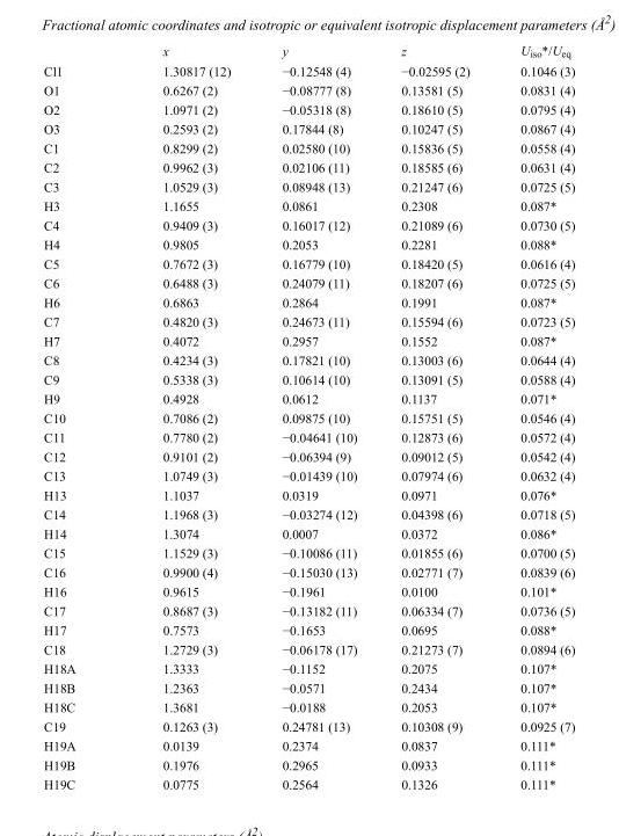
<table><thead><tr><td></td><td>x</td><td>y</td><td>z</td><td>U<sub>iso</sub>*/U<sub>eq</sub></td></tr></thead><tbody><tr><td>Cl1</td><td>1.30817 (12)</td><td>−0.12548 (4)</td><td>−0.02595 (2)</td><td>0.1046 (3)</td></tr><tr><td>O1</td><td>0.6267 (2)</td><td>−0.08777 (8)</td><td>0.13581 (5)</td><td>0.0831 (4)</td></tr><tr><td>O2</td><td>1.0971 (2)</td><td>−0.05318 (8)</td><td>0.18610 (5)</td><td>0.0795 (4)</td></tr><tr><td>O3</td><td>0.2593 (2)</td><td>0.17844 (8)</td><td>0.10247 (5)</td><td>0.0867 (4)</td></tr><tr><td>C1</td><td>0.8299 (2)</td><td>0.02580 (10)</td><td>0.15836 (5)</td><td>0.0558 (4)</td></tr><tr><td>C2</td><td>0.9962 (3)</td><td>0.02106 (11)</td><td>0.18585 (6)</td><td>0.0631 (4)</td></tr><tr><td>C3</td><td>1.0529 (3)</td><td>0.08948 (13)</td><td>0.21247 (6)</td><td>0.0725 (5)</td></tr><tr><td>H3</td><td>1.1655</td><td>0.0861</td><td>0.2308</td><td>0.087*</td></tr><tr><td>C4</td><td>0.9409 (3)</td><td>0.16017 (12)</td><td>0.21089 (6)</td><td>0.0730 (5)</td></tr><tr><td>H4</td><td>0.9805</td><td>0.2053</td><td>0.2281</td><td>0.088*</td></tr><tr><td>C5</td><td>0.7672 (3)</td><td>0.16779 (10)</td><td>0.18420 (5)</td><td>0.0616 (4)</td></tr><tr><td>C6</td><td>0.6488 (3)</td><td>0.24079 (11)</td><td>0.18207 (6)</td><td>0.0725 (5)</td></tr><tr><td>H6</td><td>0.6863</td><td>0.2864</td><td>0.1991</td><td>0.087*</td></tr><tr><td>C7</td><td>0.4820 (3)</td><td>0.24673 (11)</td><td>0.15594 (6)</td><td>0.0723 (5)</td></tr><tr><td>H7</td><td>0.4072</td><td>0.2957</td><td>0.1552</td><td>0.087*</td></tr><tr><td>C8</td><td>0.4234 (3)</td><td>0.17821 (10)</td><td>0.13003 (6)</td><td>0.0644 (4)</td></tr><tr><td>C9</td><td>0.5338 (3)</td><td>0.10614 (10)</td><td>0.13091 (5)</td><td>0.0588 (4)</td></tr><tr><td>H9</td><td>0.4928</td><td>0.0612</td><td>0.1137</td><td>0.071*</td></tr><tr><td>C10</td><td>0.7086 (2)</td><td>0.09875 (10)</td><td>0.15751 (5)</td><td>0.0546 (4)</td></tr><tr><td>C11</td><td>0.7780 (2)</td><td>−0.04641 (10)</td><td>0.12873 (6)</td><td>0.0572 (4)</td></tr><tr><td>C12</td><td>0.9101 (2)</td><td>−0.06394 (9)</td><td>0.09012 (5)</td><td>0.0542 (4)</td></tr><tr><td>C13</td><td>1.0749 (3)</td><td>−0.01439 (10)</td><td>0.07974 (6)</td><td>0.0632 (4)</td></tr><tr><td>H13</td><td>1.1037</td><td>0.0319</td><td>0.0971</td><td>0.076*</td></tr><tr><td>C14</td><td>1.1968 (3)</td><td>−0.03274 (12)</td><td>0.04398 (6)</td><td>0.0718 (5)</td></tr><tr><td>H14</td><td>1.3074</td><td>0.0007</td><td>0.0372</td><td>0.086*</td></tr><tr><td>C15</td><td>1.1529 (3)</td><td>−0.10086 (11)</td><td>0.01855 (6)</td><td>0.0700 (5)</td></tr><tr><td>C16</td><td>0.9900 (4)</td><td>−0.15030 (13)</td><td>0.02771 (7)</td><td>0.0839 (6)</td></tr><tr><td>H16</td><td>0.9615</td><td>−0.1961</td><td>0.0100</td><td>0.101*</td></tr><tr><td>C17</td><td>0.8687 (3)</td><td>−0.13182 (11)</td><td>0.06334 (7)</td><td>0.0736 (5)</td></tr><tr><td>H17</td><td>0.7573</td><td>−0.1653</td><td>0.0695</td><td>0.088*</td></tr><tr><td>C18</td><td>1.2729 (3)</td><td>−0.06178 (17)</td><td>0.21273 (7)</td><td>0.0894 (6)</td></tr><tr><td>H18A</td><td>1.3333</td><td>−0.1152</td><td>0.2075</td><td>0.107*</td></tr><tr><td>H18B</td><td>1.2363</td><td>−0.0571</td><td>0.2434</td><td>0.107*</td></tr><tr><td>H18C</td><td>1.3681</td><td>−0.0188</td><td>0.2053</td><td>0.107*</td></tr><tr><td>C19</td><td>0.1263 (3)</td><td>0.24781 (13)</td><td>0.10308 (9)</td><td>0.0925 (7)</td></tr><tr><td>H19A</td><td>0.0139</td><td>0.2374</td><td>0.0837</td><td>0.111*</td></tr><tr><td>H19B</td><td>0.1976</td><td>0.2965</td><td>0.0933</td><td>0.111*</td></tr><tr><td>H19C</td><td>0.0775</td><td>0.2564</td><td>0.1326</td><td>0.111*</td></tr></tbody></table>